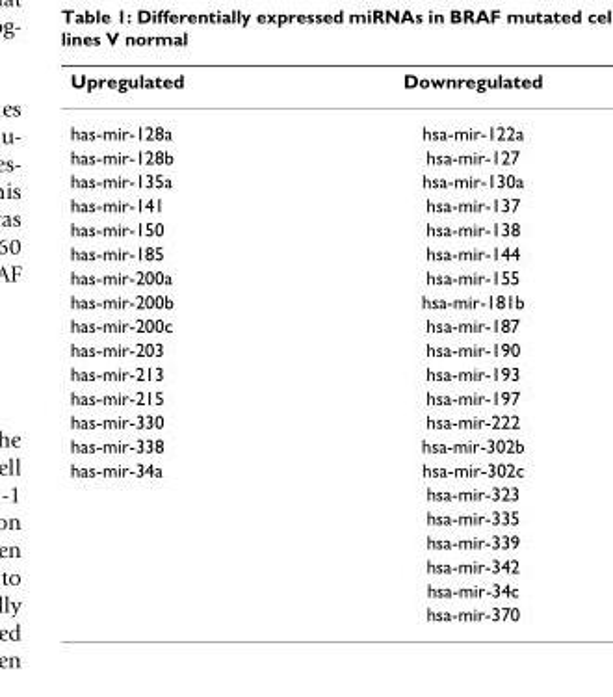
<table><thead><tr><td>Upregulated</td><td>Downregulated</td></tr></thead><tbody><tr><td>has-mir-128a</td><td>hsa-mir-122a</td></tr><tr><td>has-mir-128b</td><td>hsa-mir-127</td></tr><tr><td>has-mir-135a</td><td>hsa-mir-130a</td></tr><tr><td>has-mir-141</td><td>hsa-mir-137</td></tr><tr><td>has-mir-150</td><td>hsa-mir-138</td></tr><tr><td>has-mir-185</td><td>hsa-mir-144</td></tr><tr><td>has-mir-200a</td><td>hsa-mir-155</td></tr><tr><td>has-mir-200b</td><td>hsa-mir-181b</td></tr><tr><td>has-mir-200c</td><td>hsa-mir-187</td></tr><tr><td>has-mir-203</td><td>hsa-mir-190</td></tr><tr><td>has-mir-213</td><td>hsa-mir-193</td></tr><tr><td>has-mir-215</td><td>hsa-mir-197</td></tr><tr><td>has-mir-330</td><td>hsa-mir-222</td></tr><tr><td>has-mir-338</td><td>hsa-mir-302b</td></tr><tr><td rowspan="7">has-mir-34a</td><td>hsa-mir-302c</td></tr><tr><td>hsa-mir-323</td></tr><tr><td>hsa-mir-335</td></tr><tr><td>hsa-mir-339</td></tr><tr><td>hsa-mir-342</td></tr><tr><td>hsa-mir-34c</td></tr><tr><td>hsa-mir-370</td></tr></tbody></table>